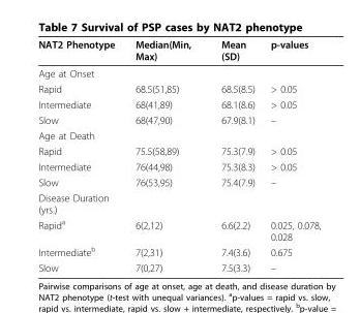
<table><thead><tr><td>NAT2 Phenotype</td><td>Median(Min, Max)</td><td>Mean (SD)</td><td>p-values</td></tr></thead><tbody><tr><td colspan="4">Age at Onset</td></tr><tr><td>Rapid</td><td>68.5(51,85)</td><td>68.5(8.5)</td><td>&gt; 0.05</td></tr><tr><td>Intermediate</td><td>68(41,89)</td><td>68.1(8.6)</td><td>&gt; 0.05</td></tr><tr><td>Slow</td><td>68(47,90)</td><td>67.9(8.1)</td><td>–</td></tr><tr><td colspan="4">Age at Death</td></tr><tr><td>Rapid</td><td>75.5(58,89)</td><td>75.3(7.9)</td><td>&gt; 0.05</td></tr><tr><td>Intermediate</td><td>76(44,98)</td><td>75.3(8.3)</td><td>&gt; 0.05</td></tr><tr><td>Slow</td><td>76(53,95)</td><td>75.4(7.9)</td><td>–</td></tr><tr><td colspan="4">Disease Duration (yrs.)</td></tr><tr><td>Rapid<sup>a</sup></td><td>6(2,12)</td><td>6.6(2.2)</td><td>0.025, 0.078, 0.028</td></tr><tr><td>Intermediate<sup>b</sup></td><td>7(2,31)</td><td>7.4(3.6)</td><td>0.675</td></tr><tr><td>Slow</td><td>7(0,27)</td><td>7.5(3.3)</td><td>–</td></tr></tbody></table>